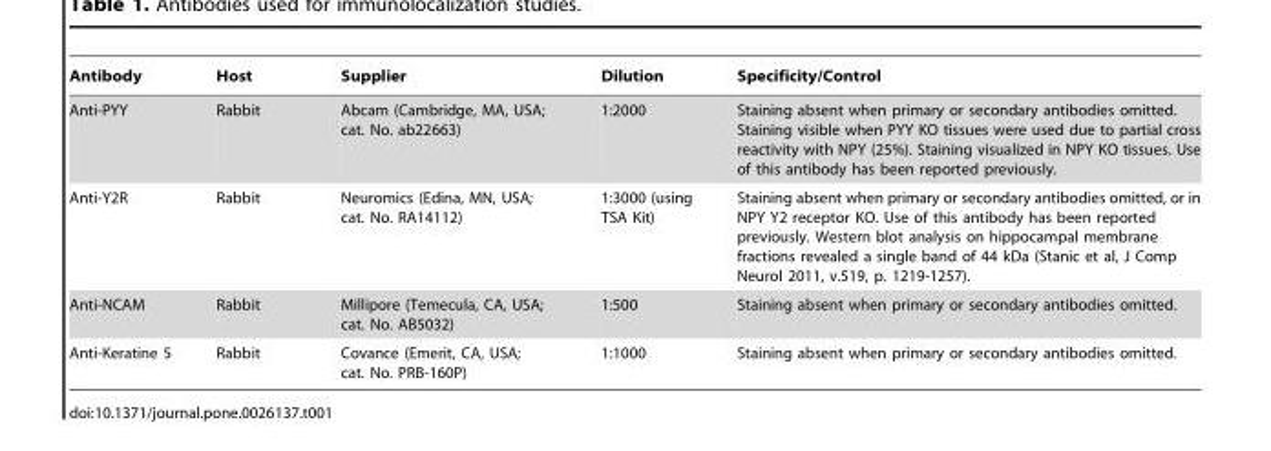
<table><thead><tr><td>Antibody</td><td>Host</td><td>Supplier</td><td>Dilution</td><td>Specificity/Control</td></tr></thead><tbody><tr><td>Anti-PYY</td><td>Rabbit</td><td>Abcam (Cambridge, MA, USA; cat. No. ab22663)</td><td>1:2000</td><td>Staining absent when primary or secondary antibodies omitted. Staining visible when PYY KO tissues were used due to partial cross reactivity with NPY (25%). Staining visualized in NPY KO tissues. Use of this antibody has been reported previously.</td></tr><tr><td>Anti-Y2R</td><td>Rabbit</td><td>Neuromics (Edina, MN, USA; cat. No. RA14112)</td><td>1:3000 (using TSA Kit)</td><td>Staining absent when primary or secondary antibodies omitted, or in NPY Y2 receptor KO. Use of this antibody has been reported previously. Western blot analysis on hippocampal membrane fractions revealed a single band of 44 kDa (Stanic et al, J Comp Neurol 2011, v.519, p. 1219-1257).</td></tr><tr><td>Anti-NCAM</td><td>Rabbit</td><td>Millipore (Temecula, CA, USA; cat. No. AB5032)</td><td>1:500</td><td>Staining absent when primary or secondary antibodies omitted.</td></tr><tr><td>Anti-Keratine 5</td><td>Rabbit</td><td>Covance (Emerit, CA, USA; cat. No. PRB-160P)</td><td>1:1000</td><td>Staining absent when primary or secondary antibodies omitted.</td></tr></tbody></table>